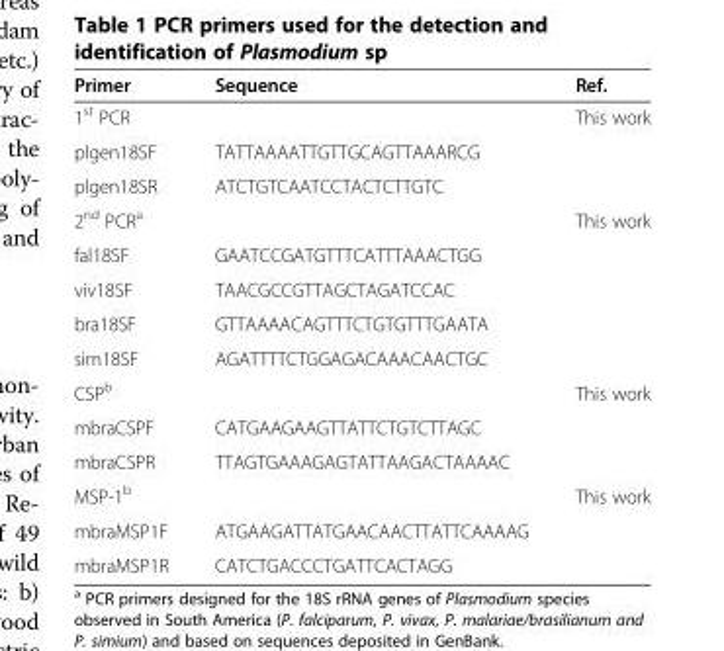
<table><thead><tr><td>Primer</td><td>Sequence</td><td>Ref.</td></tr></thead><tbody><tr><td>1<sup>st</sup> PCR</td><td></td><td>This work</td></tr><tr><td>plgen18SF</td><td>TATTAAAATTGTTGCAGTTAAARCG</td><td></td></tr><tr><td>plgen18SR</td><td>ATCTGTCAATCCTACTCTTGTC</td><td></td></tr><tr><td>2<sup>nd</sup> PCR<sup>a</sup></td><td></td><td>This work</td></tr><tr><td>fal18SF</td><td>GAATCCGATGTTTCATTTAAACTGG</td><td></td></tr><tr><td>viv18SF</td><td>TAACGCCGTTAGCTAGATCCAC</td><td></td></tr><tr><td>bra18SF</td><td>GTTAAAACAGTTTCTGTGTTTGAATA</td><td></td></tr><tr><td>sim18SF</td><td>AGATTTTCTGGAGACAAACAACTGC</td><td></td></tr><tr><td>CSP<sup>b</sup></td><td></td><td>This work</td></tr><tr><td>mbraCSPF</td><td>CATGAAGAAGTTATTCTGTCTTAGC</td><td></td></tr><tr><td>mbraCSPR</td><td>TTAGTGAAAGAGTATTAAGACTAAAAC</td><td></td></tr><tr><td>MSP-1<sup>b</sup></td><td></td><td>This work</td></tr><tr><td>mbraMSP1F</td><td>ATGAAGATTATGAACAACTTATTCAAAAG</td><td></td></tr><tr><td>mbraMSP1R</td><td>CATCTGACCCTGATTCACTAGG</td><td></td></tr></tbody></table>